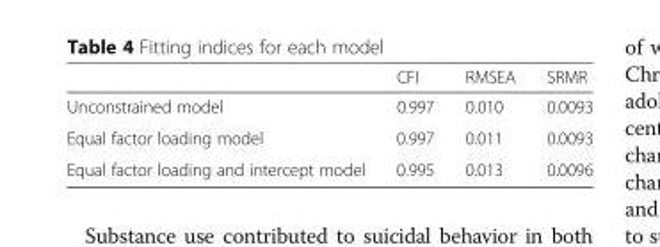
<table><thead><tr><td></td><td>CFI</td><td>RMSEA</td><td>SRMR</td></tr></thead><tbody><tr><td>Unconstrained model</td><td>0.997</td><td>0.010</td><td>0.0093</td></tr><tr><td>Equal factor loading model</td><td>0.997</td><td>0.011</td><td>0.0093</td></tr><tr><td>Equal factor loading and intercept model</td><td>0.995</td><td>0.013</td><td>0.0096</td></tr></tbody></table>